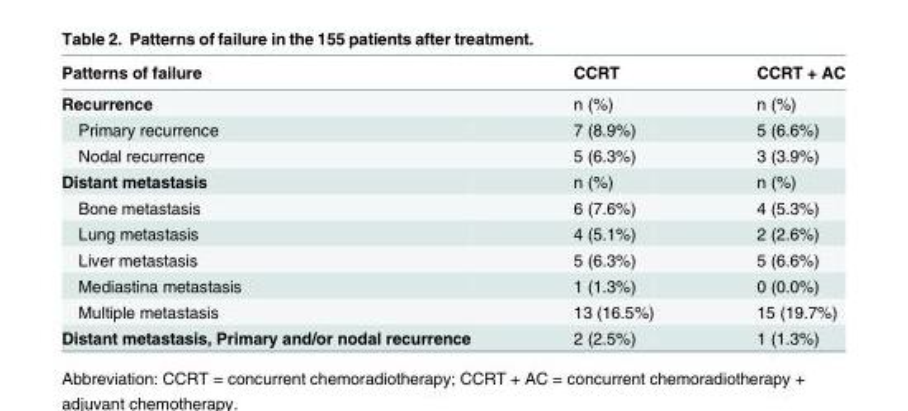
<table><thead><tr><td>Patterns of failure</td><td>CCRT</td><td>CCRT + AC</td></tr></thead><tbody><tr><td>Recurrence</td><td>n (%)</td><td>n (%)</td></tr><tr><td>Primary recurrence</td><td>7 (8.9%)</td><td>5 (6.6%)</td></tr><tr><td>Nodal recurrence</td><td>5 (6.3%)</td><td>3 (3.9%)</td></tr><tr><td>Distant metastasis</td><td>n (%)</td><td>n (%)</td></tr><tr><td>Bone metastasis</td><td>6 (7.6%)</td><td>4 (5.3%)</td></tr><tr><td>Lung metastasis</td><td>4 (5.1%)</td><td>2 (2.6%)</td></tr><tr><td>Liver metastasis</td><td>5 (6.3%)</td><td>5 (6.6%)</td></tr><tr><td>Mediastina metastasis</td><td>1 (1.3%)</td><td>0 (0.0%)</td></tr><tr><td>Multiple metastasis</td><td>13 (16.5%)</td><td>15 (19.7%)</td></tr><tr><td>Distant metastasis, Primary and/or nodal recurrence</td><td>2 (2.5%)</td><td>1 (1.3%)</td></tr></tbody></table>